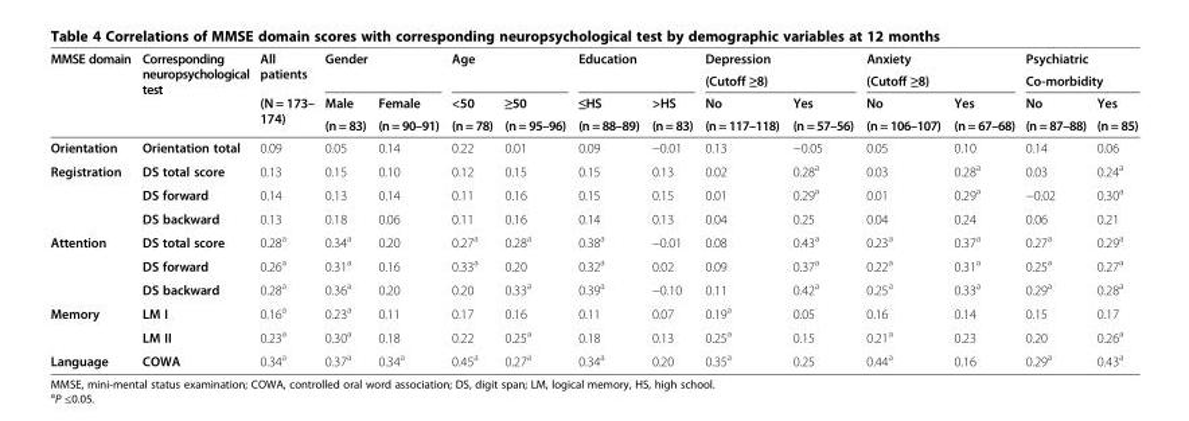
<table><thead><tr><td rowspan="4">MMSE domain</td><td rowspan="4">Corresponding neuropsychological test</td><td rowspan="4">All patients (N = 173– 174)</td><td rowspan="2" colspan="2">Gender</td><td rowspan="2" colspan="2">Age</td><td rowspan="2" colspan="2">Education</td><td rowspan="2" colspan="2">Depression (Cutoff ≥8)</td><td rowspan="2" colspan="2">Anxiety (Cutoff ≥8)</td><td rowspan="2" colspan="2">Psychiatric Co-morbidity</td></tr><tr></tr><tr><td rowspan="2">Male (n = 83)</td><td rowspan="2">Female (n = 90–91)</td><td rowspan="2">&lt;50 (n = 78)</td><td rowspan="2">≥50 (n = 95–96)</td><td rowspan="2">≤HS (n = 88–89)</td><td rowspan="2">&gt;HS (n = 83)</td><td rowspan="2">No (n = 117–118)</td><td rowspan="2">Yes (n = 57–56)</td><td rowspan="2">No (n = 106–107)</td><td rowspan="2">Yes (n = 67–68)</td><td rowspan="2">No (n = 87–88)</td><td rowspan="2">Yes (n = 85)</td></tr><tr></tr></thead><tbody><tr><td>Orientation</td><td>Orientation total</td><td>0.09</td><td>0.05</td><td>0.14</td><td>0.22</td><td>0.01</td><td>0.09</td><td>−0.01</td><td>0.13</td><td>−0.05</td><td>0.05</td><td>0.10</td><td>0.14</td><td>0.06</td></tr><tr><td rowspan="3">Registration</td><td>DS total score</td><td>0.13</td><td>0.15</td><td>0.10</td><td>0.12</td><td>0.15</td><td>0.15</td><td>0.13</td><td>0.02</td><td>0.28<sup>a</sup></td><td>0.03</td><td>0.28<sup>a</sup></td><td>0.03</td><td>0.24<sup>a</sup></td></tr><tr><td>DS forward</td><td>0.14</td><td>0.13</td><td>0.14</td><td>0.11</td><td>0.16</td><td>0.15</td><td>0.15</td><td>0.01</td><td>0.29<sup>a</sup></td><td>0.01</td><td>0.29<sup>a</sup></td><td>−0.02</td><td>0.30<sup>a</sup></td></tr><tr><td>DS backward</td><td>0.13</td><td>0.18</td><td>0.06</td><td>0.11</td><td>0.16</td><td>0.14</td><td>0.13</td><td>0.04</td><td>0.25</td><td>0.04</td><td>0.24</td><td>0.06</td><td>0.21</td></tr><tr><td rowspan="3">Attention</td><td>DS total score</td><td>0.28<sup>a</sup></td><td>0.34<sup>a</sup></td><td>0.20</td><td>0.27<sup>a</sup></td><td>0.28<sup>a</sup></td><td>0.38<sup>a</sup></td><td>−0.01</td><td>0.08</td><td>0.43<sup>a</sup></td><td>0.23<sup>a</sup></td><td>0.37<sup>a</sup></td><td>0.27<sup>a</sup></td><td>0.29<sup>a</sup></td></tr><tr><td>DS forward</td><td>0.26<sup>a</sup></td><td>0.31<sup>a</sup></td><td>0.16</td><td>0.33<sup>a</sup></td><td>0.20</td><td>0.32<sup>a</sup></td><td>0.02</td><td>0.09</td><td>0.37<sup>a</sup></td><td>0.22<sup>a</sup></td><td>0.31<sup>a</sup></td><td>0.25<sup>a</sup></td><td>0.27<sup>a</sup></td></tr><tr><td>DS backward</td><td>0.28<sup>a</sup></td><td>0.36<sup>a</sup></td><td>0.20</td><td>0.20</td><td>0.33<sup>a</sup></td><td>0.39<sup>a</sup></td><td>−0.10</td><td>0.11</td><td>0.42<sup>a</sup></td><td>0.25<sup>a</sup></td><td>0.33<sup>a</sup></td><td>0.29<sup>a</sup></td><td>0.28<sup>a</sup></td></tr><tr><td rowspan="2">Memory</td><td>LM I</td><td>0.16<sup>a</sup></td><td>0.23<sup>a</sup></td><td>0.11</td><td>0.17</td><td>0.16</td><td>0.11</td><td>0.07</td><td>0.19<sup>a</sup></td><td>0.05</td><td>0.16</td><td>0.14</td><td>0.15</td><td>0.17</td></tr><tr><td>LM II</td><td>0.23<sup>a</sup></td><td>0.30<sup>a</sup></td><td>0.18</td><td>0.22</td><td>0.25<sup>a</sup></td><td>0.18</td><td>0.13</td><td>0.25<sup>a</sup></td><td>0.15</td><td>0.21<sup>a</sup></td><td>0.23</td><td>0.20</td><td>0.26<sup>a</sup></td></tr><tr><td>Language</td><td>COWA</td><td>0.34<sup>a</sup></td><td>0.37<sup>a</sup></td><td>0.34<sup>a</sup></td><td>0.45<sup>a</sup></td><td>0.27<sup>a</sup></td><td>0.34<sup>a</sup></td><td>0.20</td><td>0.35<sup>a</sup></td><td>0.25</td><td>0.44<sup>a</sup></td><td>0.16</td><td>0.29<sup>a</sup></td><td>0.43<sup>a</sup></td></tr></tbody></table>